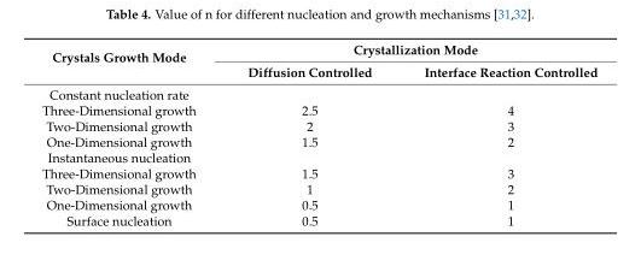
<table><thead><tr><td rowspan="2">Crystals Growth Mode</td><td colspan="2">Crystallization Mode</td></tr><tr><td>Diffusion Controlled</td><td>Interface Reaction Controlled</td></tr></thead><tbody><tr><td colspan="3">Constant nucleation rate</td></tr><tr><td>Three-Dimensional growth</td><td>2.5</td><td>4</td></tr><tr><td>Two-Dimensional growth</td><td>2</td><td>3</td></tr><tr><td>One-Dimensional growth</td><td>1.5</td><td>2</td></tr><tr><td colspan="3">Instantaneous nucleation</td></tr><tr><td>Three-Dimensional growth</td><td>1.5</td><td>3</td></tr><tr><td>Two-Dimensional growth</td><td>1</td><td>2</td></tr><tr><td>One-Dimensional growth</td><td>0.5</td><td>1</td></tr><tr><td>Surface nucleation</td><td>0.5</td><td>1</td></tr></tbody></table>